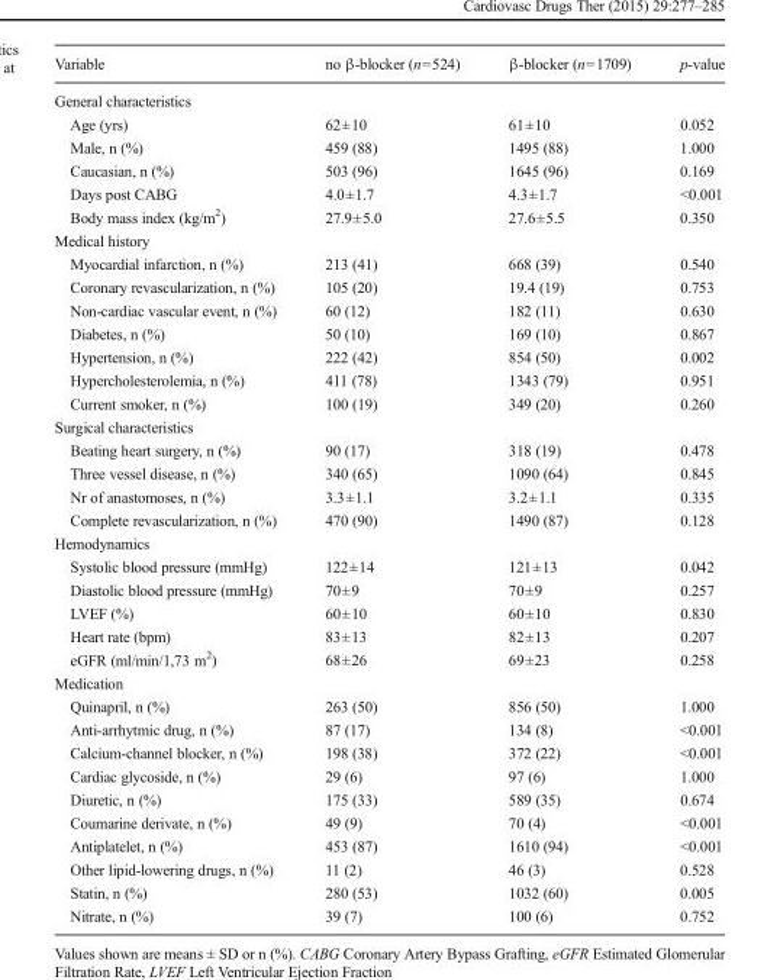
<table><thead><tr><td>Variable</td><td>no β-blocker (n=524)</td><td>β-blocker (n=1709)</td><td>p-value</td></tr></thead><tbody><tr><td colspan="4">General characteristics</td></tr><tr><td>Age (yrs)</td><td>62±10</td><td>61±10</td><td>0.052</td></tr><tr><td>Male, n (%)</td><td>459 (88)</td><td>1495 (88)</td><td>1.000</td></tr><tr><td>Caucasian, n (%)</td><td>503 (96)</td><td>1645 (96)</td><td>0.169</td></tr><tr><td>Days post CABG</td><td>4.0±1.7</td><td>4.3±1.7</td><td>&lt;0.001</td></tr><tr><td>Body mass index (kg/m<sup>2</sup>)</td><td>27.9±5.0</td><td>27.6±5.5</td><td>0.350</td></tr><tr><td colspan="4">Medical history</td></tr><tr><td>Myocardial infarction, n (%)</td><td>213 (41)</td><td>668 (39)</td><td>0.540</td></tr><tr><td>Coronary revascularization, n (%)</td><td>105 (20)</td><td>19.4 (19)</td><td>0.753</td></tr><tr><td>Non-cardiac vascular event, n (%)</td><td>60 (12)</td><td>182 (11)</td><td>0.630</td></tr><tr><td>Diabetes, n (%)</td><td>50 (10)</td><td>169 (10)</td><td>0.867</td></tr><tr><td>Hypertension, n (%)</td><td>222 (42)</td><td>854 (50)</td><td>0.002</td></tr><tr><td>Hypercholesterolemia, n (%)</td><td>411 (78)</td><td>1343 (79)</td><td>0.951</td></tr><tr><td>Current smoker, n (%)</td><td>100 (19)</td><td>349 (20)</td><td>0.260</td></tr><tr><td colspan="4">Surgical characteristics</td></tr><tr><td>Beating heart surgery, n (%)</td><td>90 (17)</td><td>318 (19)</td><td>0.478</td></tr><tr><td>Three vessel disease, n (%)</td><td>340 (65)</td><td>1090 (64)</td><td>0.845</td></tr><tr><td>Nr of anastomoses, n (%)</td><td>3.3±1.1</td><td>3.2±1.1</td><td>0.335</td></tr><tr><td>Complete revascularization, n (%)</td><td>470 (90)</td><td>1490 (87)</td><td>0.128</td></tr><tr><td colspan="4">Hemodynamics</td></tr><tr><td>Systolic blood pressure (mmHg)</td><td>122±14</td><td>121±13</td><td>0.042</td></tr><tr><td>Diastolic blood pressure (mmHg)</td><td>70±9</td><td>70±9</td><td>0.257</td></tr><tr><td>LVEF (%)</td><td>60±10</td><td>60±10</td><td>0.830</td></tr><tr><td>Heart rate (bpm)</td><td>83±13</td><td>82±13</td><td>0.207</td></tr><tr><td>eGFR (ml/min/1,73 m<sup>2</sup>)</td><td>68±26</td><td>69±23</td><td>0.258</td></tr><tr><td colspan="4">Medication</td></tr><tr><td>Quinapril, n (%)</td><td>263 (50)</td><td>856 (50)</td><td>1.000</td></tr><tr><td>Anti-arrhytmic drug, n (%)</td><td>87 (17)</td><td>134 (8)</td><td>&lt;0.001</td></tr><tr><td>Calcium-channel blocker, n (%)</td><td>198 (38)</td><td>372 (22)</td><td>&lt;0.001</td></tr><tr><td>Cardiac glycoside, n (%)</td><td>29 (6)</td><td>97 (6)</td><td>1.000</td></tr><tr><td>Diuretic, n (%)</td><td>175 (33)</td><td>589 (35)</td><td>0.674</td></tr><tr><td>Coumarine derivate, n (%)</td><td>49 (9)</td><td>70 (4)</td><td>&lt;0.001</td></tr><tr><td>Antiplatelet, n (%)</td><td>453 (87)</td><td>1610 (94)</td><td>&lt;0.001</td></tr><tr><td>Other lipid-lowering drugs, n (%)</td><td>11 (2)</td><td>46 (3)</td><td>0.528</td></tr><tr><td>Statin, n (%)</td><td>280 (53)</td><td>1032 (60)</td><td>0.005</td></tr><tr><td>Nitrate, n (%)</td><td>39 (7)</td><td>100 (6)</td><td>0.752</td></tr></tbody></table>